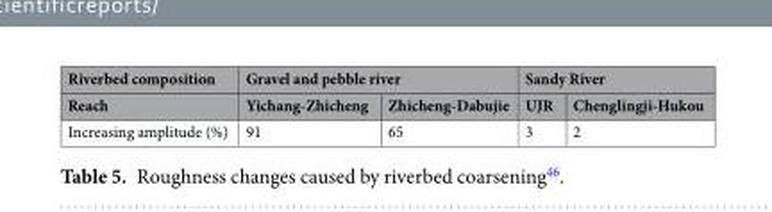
<table><thead><tr><td rowspan="2">Riverbed composition Reach</td><td colspan="2">Gravel and pebble river</td><td colspan="2">Sandy River</td></tr><tr><td>Yichang-Zhicheng</td><td>Zhicheng-Dabujie</td><td>UJR</td><td>Chenglingji-Hukou</td></tr></thead><tbody><tr><td>Increasing amplitude (%)</td><td>91</td><td>65</td><td>3</td><td>2</td></tr></tbody></table>